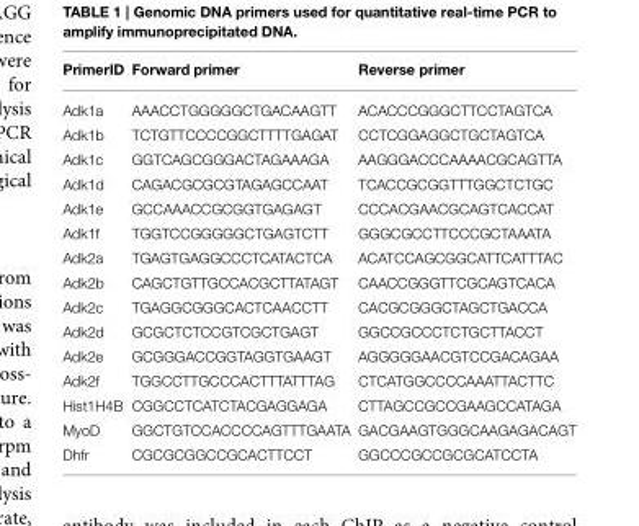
<table><thead><tr><td>PrimerID</td><td>Forward primer</td><td>Reverse primer</td></tr></thead><tbody><tr><td>Adk1a</td><td>AAACCTGGGGGCTGACAAGTT</td><td>ACACCCGGGCTTCCTAGTCA</td></tr><tr><td>Adk1b</td><td>TCTGTTCCCCGGCTTTTGAGAT</td><td>CCTCGGAGGCTGCTAGTCA</td></tr><tr><td>Adk1c</td><td>GGTCAGCGGGACTAGAAAGA</td><td>AAGGGACCCAAAACGCAGTTA</td></tr><tr><td>Adk1d</td><td>CAGACGCGCGTAGAGCCAAT</td><td>TCACCGCGGTTTGGCTCTGC</td></tr><tr><td>Adk1e</td><td>GCCAAACCGCGGTGAGAGT</td><td>CCCACGAACGCAGTCACCAT</td></tr><tr><td>Adk1f</td><td>TGGTCCGGGGGCTGAGTCTT</td><td>GGGCGCCTTCCCGCTAAATA</td></tr><tr><td>Adk2a</td><td>TGAGTGAGGCCCTCATACTCA</td><td>ACATCCAGCGGCATTCATTTAC</td></tr><tr><td>Adk2b</td><td>CAGCTGTTGCCACGCTTATAGT</td><td>CAACCGGGTTCGCAGTCACA</td></tr><tr><td>Adk2c</td><td>TGAGGCGGGCACTCAACCTT</td><td>CACGCGGGCTAGCTGACCA</td></tr><tr><td>Adk2d</td><td>GCGCTCTCCGTCGCTGAGT</td><td>GGCCGCCCTCTGCTTACCT</td></tr><tr><td>Adk2e</td><td>GCGGGACCGGTAGGTGAAGT</td><td>AGGGGGAACGTCCGACAGAA</td></tr><tr><td>Adk2f</td><td>TGGCCTTGCCCACTTTATTTAG</td><td>CTCATGGCCCCAAATTACTTC</td></tr><tr><td>Hist1H4B</td><td>CGGCCTCATCTACGAGGAGA</td><td>CTTAGCCGCCGAAGCCATAGA</td></tr><tr><td>MyoD</td><td>GGCTGTCCACCCCAGTTTGAATA</td><td>GACGAAGTGGGCAAGAGACAGT</td></tr><tr><td>Dhfr</td><td>CGCGCGGCCGCACTTCCT</td><td>GGCCCGCCGCGCATCCTA</td></tr></tbody></table>